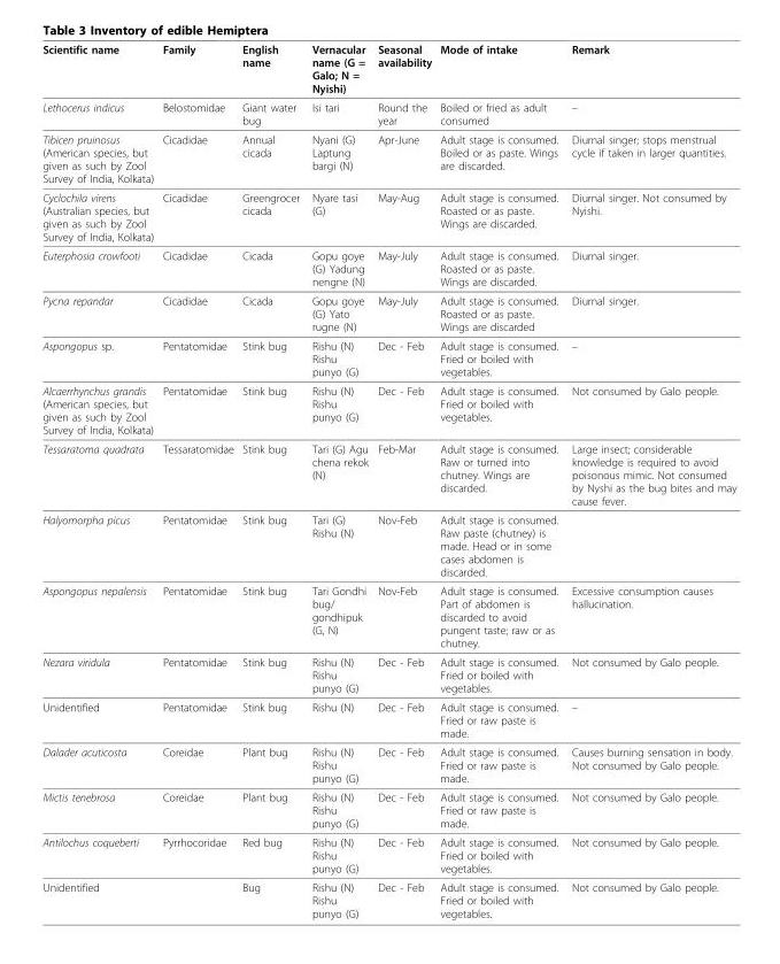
<table><thead><tr><td>Scientific name</td><td>Family</td><td>English name</td><td>Vernacular name (G = Galo; N = Nyishi)</td><td>Seasonal availability</td><td>Mode of intake</td><td>Remark</td></tr></thead><tbody><tr><td>Lethocerus indicus</td><td>Belostomidae</td><td>Giant water bug</td><td>Isi tari</td><td>Round the year</td><td>Boiled or fried as adult consumed</td><td>–</td></tr><tr><td>Tibicen pruinosus (American species, but given as such by Zool Survey of India, Kolkata)</td><td>Cicadidae</td><td>Annual cicada</td><td>Nyani (G) Laptung bargi (N)</td><td>Apr-June</td><td>Adult stage is consumed. Boiled or as paste. Wings are discarded.</td><td>Diurnal singer; stops menstrual cycle if taken in larger quantities.</td></tr><tr><td>Cyclochila virens (Australian species, but given as such by Zool Survey of India, Kolkata)</td><td>Cicadidae</td><td>Greengrocer cicada</td><td>Nyare tasi (G)</td><td>May-Aug</td><td>Adult stage is consumed. Roasted or as paste. Wings are discarded.</td><td>Diurnal singer. Not consumed by Nyishi.</td></tr><tr><td>Euterphosia crowfooti</td><td>Cicadidae</td><td>Cicada</td><td>Gopu goye (G) Yadung nengne (N)</td><td>May-July</td><td>Adult stage is consumed. Roasted or as paste. Wings are discarded.</td><td>Diurnal singer.</td></tr><tr><td>Pycna repandar</td><td>Cicadidae</td><td>Cicada</td><td>Gopu goye (G) Yato rugne (N)</td><td>May-July</td><td>Adult stage is consumed. Roasted or as paste. Wings are discarded</td><td>Diurnal singer.</td></tr><tr><td>Aspongopus sp.</td><td>Pentatomidae</td><td>Stink bug</td><td>Rishu (N) Rishu punyo (G)</td><td>Dec - Feb</td><td>Adult stage is consumed. Fried or boiled with vegetables.</td><td>–</td></tr><tr><td>Alcaerrhynchus grandis (American species, but given as such by Zool Survey of India, Kolkata)</td><td>Pentatomidae</td><td>Stink bug</td><td>Rishu (N) Rishu punyo (G)</td><td>Dec - Feb</td><td>Adult stage is consumed. Fried or boiled with vegetables.</td><td>Not consumed by Galo people.</td></tr><tr><td>Tessaratoma quadrata</td><td>Tessaratomidae</td><td>Stink bug</td><td>Tari (G) Agu chena rekok (N)</td><td>Feb-Mar</td><td>Adult stage is consumed. Raw or turned into chutney. Wings are discarded.</td><td>Large insect; considerable knowledge is required to avoid poisonous mimic. Not consumed by Nyshi as the bug bites and may cause fever.</td></tr><tr><td>Halyomorpha picus</td><td>Pentatomidae</td><td>Stink bug</td><td>Tari (G) Rishu (N)</td><td>Nov-Feb</td><td>Adult stage is consumed. Raw paste (chutney) is made. Head or in some cases abdomen is discarded.</td><td></td></tr><tr><td>Aspongopus nepalensis</td><td>Pentatomidae</td><td>Stink bug</td><td>Tari Gondhi bug/ gondhipuk (G, N)</td><td>Nov-Feb</td><td>Adult stage is consumed. Part of abdomen is discarded to avoid pungent taste; raw or as chutney.</td><td>Excessive consumption causes hallucination.</td></tr><tr><td>Nezara viridula</td><td>Pentatomidae</td><td>Stink bug</td><td>Rishu (N) Rishu punyo (G)</td><td>Dec - Feb</td><td>Adult stage is consumed. Fried or boiled with vegetables.</td><td>Not consumed by Galo people.</td></tr><tr><td>Unidentified</td><td>Pentatomidae</td><td>Stink bug</td><td>Rishu (N)</td><td>Dec - Feb</td><td>Adult stage is consumed. Fried or raw paste is made.</td><td>–</td></tr><tr><td>Dalader acuticosta</td><td>Coreidae</td><td>Plant bug</td><td>Rishu (N) Rishu punyo (G)</td><td>Dec - Feb</td><td>Adult stage is consumed. Fried or raw paste is made.</td><td>Causes burning sensation in body. Not consumed by Galo people.</td></tr><tr><td>Mictis tenebrosa</td><td>Coreidae</td><td>Plant bug</td><td>Rishu (N) Rishu punyo (G)</td><td>Dec - Feb</td><td>Adult stage is consumed. Fried or raw paste is made.</td><td>Not consumed by Galo people.</td></tr><tr><td>Antilochus coqueberti</td><td>Pyrrhocoridae</td><td>Red bug</td><td>Rishu (N) Rishu punyo (G)</td><td>Dec - Feb</td><td>Adult stage is consumed. Fried or boiled with vegetables.</td><td>Not consumed by Galo people.</td></tr><tr><td>Unidentified</td><td></td><td>Bug</td><td>Rishu (N) Rishu punyo (G)</td><td>Dec - Feb</td><td>Adult stage is consumed. Fried or boiled with vegetables.</td><td>Not consumed by Galo people.</td></tr></tbody></table>